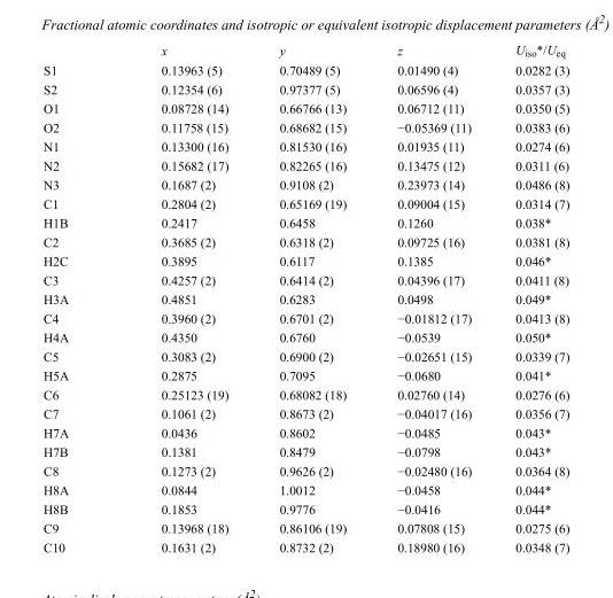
<table><thead><tr><td></td><td>x</td><td>y</td><td>z</td><td>U<sub>iso</sub>*/U<sub>eq</sub></td></tr></thead><tbody><tr><td>S1</td><td>0.13963 (5)</td><td>0.70489 (5)</td><td>0.01490 (4)</td><td>0.0282 (3)</td></tr><tr><td>S2</td><td>0.12354 (6)</td><td>0.97377 (5)</td><td>0.06596 (4)</td><td>0.0357 (3)</td></tr><tr><td>O1</td><td>0.08728 (14)</td><td>0.66766 (13)</td><td>0.06712 (11)</td><td>0.0350 (5)</td></tr><tr><td>O2</td><td>0.11758 (15)</td><td>0.68682 (15)</td><td>−0.05369 (11)</td><td>0.0383 (6)</td></tr><tr><td>N1</td><td>0.13300 (16)</td><td>0.81530 (16)</td><td>0.01935 (11)</td><td>0.0274 (6)</td></tr><tr><td>N2</td><td>0.15682 (17)</td><td>0.82265 (16)</td><td>0.13475 (12)</td><td>0.0311 (6)</td></tr><tr><td>N3</td><td>0.1687 (2)</td><td>0.9108 (2)</td><td>0.23973 (14)</td><td>0.0486 (8)</td></tr><tr><td>C1</td><td>0.2804 (2)</td><td>0.65169 (19)</td><td>0.09004 (15)</td><td>0.0314 (7)</td></tr><tr><td>H1B</td><td>0.2417</td><td>0.6458</td><td>0.1260</td><td>0.038*</td></tr><tr><td>C2</td><td>0.3685 (2)</td><td>0.6318 (2)</td><td>0.09725 (16)</td><td>0.0381 (8)</td></tr><tr><td>H2C</td><td>0.3895</td><td>0.6117</td><td>0.1385</td><td>0.046*</td></tr><tr><td>C3</td><td>0.4257 (2)</td><td>0.6414 (2)</td><td>0.04396 (17)</td><td>0.0411 (8)</td></tr><tr><td>H3A</td><td>0.4851</td><td>0.6283</td><td>0.0498</td><td>0.049*</td></tr><tr><td>C4</td><td>0.3960 (2)</td><td>0.6701 (2)</td><td>−0.01812 (17)</td><td>0.0413 (8)</td></tr><tr><td>H4A</td><td>0.4350</td><td>0.6760</td><td>−0.0539</td><td>0.050*</td></tr><tr><td>C5</td><td>0.3083 (2)</td><td>0.6900 (2)</td><td>−0.02651 (15)</td><td>0.0339 (7)</td></tr><tr><td>H5A</td><td>0.2875</td><td>0.7095</td><td>−0.0680</td><td>0.041*</td></tr><tr><td>C6</td><td>0.25123 (19)</td><td>0.68082 (18)</td><td>0.02760 (14)</td><td>0.0276 (6)</td></tr><tr><td>C7</td><td>0.1061 (2)</td><td>0.8673 (2)</td><td>−0.04017 (16)</td><td>0.0356 (7)</td></tr><tr><td>H7A</td><td>0.0436</td><td>0.8602</td><td>−0.0485</td><td>0.043*</td></tr><tr><td>H7B</td><td>0.1381</td><td>0.8479</td><td>−0.0798</td><td>0.043*</td></tr><tr><td>C8</td><td>0.1273 (2)</td><td>0.9626 (2)</td><td>−0.02480 (16)</td><td>0.0364 (8)</td></tr><tr><td>H8A</td><td>0.0844</td><td>1.0012</td><td>−0.0458</td><td>0.044*</td></tr><tr><td>H8B</td><td>0.1853</td><td>0.9776</td><td>−0.0416</td><td>0.044*</td></tr><tr><td>C9</td><td>0.13968 (18)</td><td>0.86106 (19)</td><td>0.07808 (15)</td><td>0.0275 (6)</td></tr><tr><td>C10</td><td>0.1631 (2)</td><td>0.8732 (2)</td><td>0.18980 (16)</td><td>0.0348 (7)</td></tr></tbody></table>